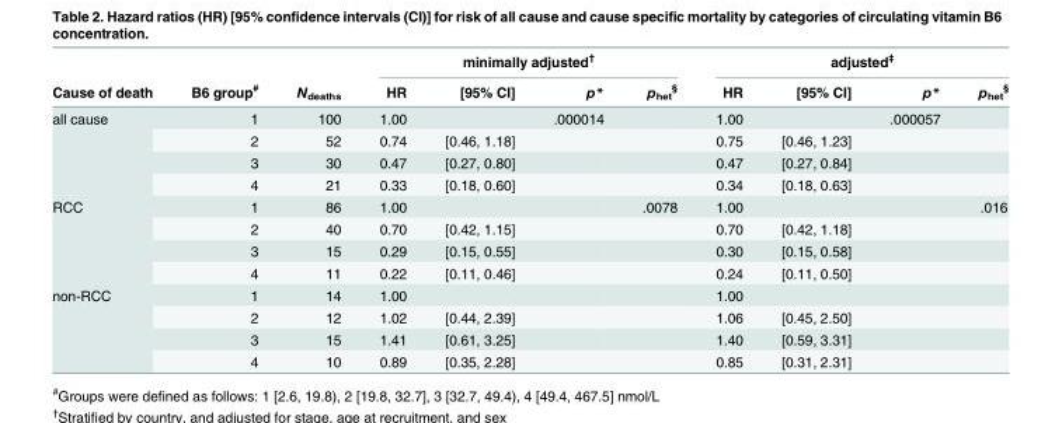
<table><thead><tr><td rowspan="2">Cause of death</td><td rowspan="2">B6 group<sup>#</sup></td><td rowspan="2">N<sub>deaths</sub></td><td colspan="4">minimally adjusted<sup>†</sup></td><td colspan="4">adjusted<sup>‡</sup></td></tr><tr><td>HR</td><td>[95% CI]</td><td>p*</td><td>p<sub>het</sub> <sup>§</sup></td><td>HR</td><td>[95% CI]</td><td>p*</td><td>p<sub>het</sub> <sup>§</sup></td></tr></thead><tbody><tr><td rowspan="4">all cause</td><td>1</td><td>100</td><td>1.00</td><td></td><td>.000014</td><td></td><td>1.00</td><td></td><td>.000057</td><td></td></tr><tr><td>2</td><td>52</td><td>0.74</td><td>[0.46, 1.18]</td><td></td><td></td><td>0.75</td><td>[0.46, 1.23]</td><td></td><td></td></tr><tr><td>3</td><td>30</td><td>0.47</td><td>[0.27, 0.80]</td><td></td><td></td><td>0.47</td><td>[0.27, 0.84]</td><td></td><td></td></tr><tr><td>4</td><td>21</td><td>0.33</td><td>[0.18, 0.60]</td><td></td><td></td><td>0.34</td><td>[0.18, 0.63]</td><td></td><td></td></tr><tr><td rowspan="4">RCC</td><td>1</td><td>86</td><td>1.00</td><td></td><td></td><td>.0078</td><td>1.00</td><td></td><td></td><td>.016</td></tr><tr><td>2</td><td>40</td><td>0.70</td><td>[0.42, 1.15]</td><td></td><td></td><td>0.70</td><td>[0.42, 1.18]</td><td></td><td></td></tr><tr><td>3</td><td>15</td><td>0.29</td><td>[0.15, 0.55]</td><td></td><td></td><td>0.30</td><td>[0.15, 0.58]</td><td></td><td></td></tr><tr><td>4</td><td>11</td><td>0.22</td><td>[0.11, 0.46]</td><td></td><td></td><td>0.24</td><td>[0.11, 0.50]</td><td></td><td></td></tr><tr><td rowspan="4">non-RCC</td><td>1</td><td>14</td><td>1.00</td><td></td><td></td><td></td><td>1.00</td><td></td><td></td><td></td></tr><tr><td>2</td><td>12</td><td>1.02</td><td>[0.44, 2.39]</td><td></td><td></td><td>1.06</td><td>[0.45, 2.50]</td><td></td><td></td></tr><tr><td>3</td><td>15</td><td>1.41</td><td>[0.61, 3.25]</td><td></td><td></td><td>1.40</td><td>[0.59, 3.31]</td><td></td><td></td></tr><tr><td>4</td><td>10</td><td>0.89</td><td>[0.35, 2.28]</td><td></td><td></td><td>0.85</td><td>[0.31, 2.31]</td><td></td><td></td></tr></tbody></table>